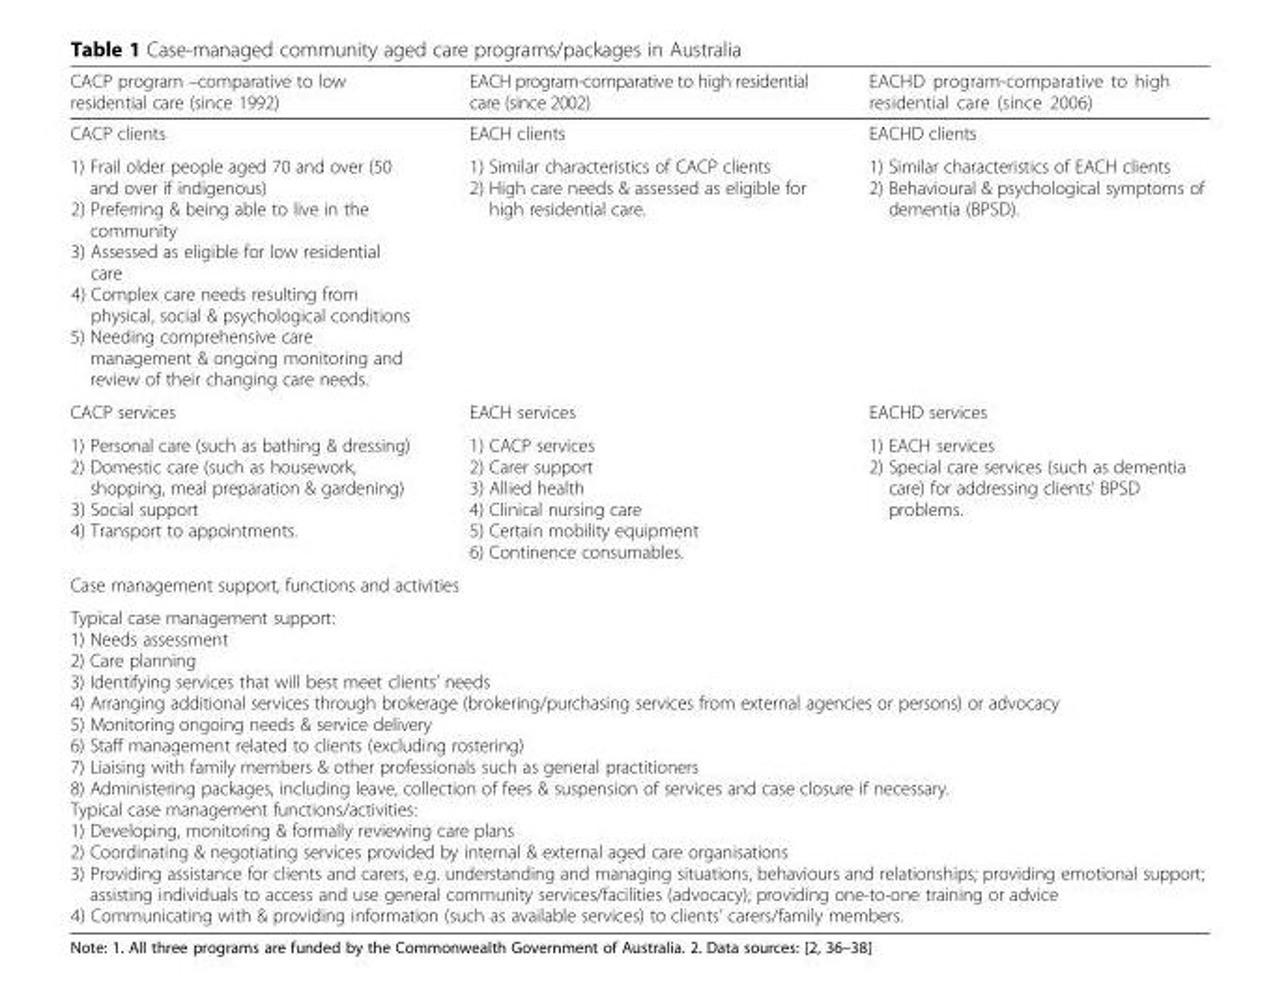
<table><thead><tr><td>CACP program –comparative to low residential care (since 1992)</td><td>EACH program-comparative to high residential care (since 2002)</td><td>EACHD program-comparative to high residential care (since 2006)</td></tr></thead><tbody><tr><td>CACP clients</td><td>EACH clients</td><td>EACHD clients</td></tr><tr><td>1) Frail older people aged 70 and over (50 and over if indigenous) 2) Preferring &amp; being able to live in the community 3) Assessed as eligible for low residential care 4) Complex care needs resulting from physical, social &amp; psychological conditions 5) Needing comprehensive care management &amp; ongoing monitoring and review of their changing care needs.</td><td>1) Similar characteristics of CACP clients 2) High care needs &amp; assessed as eligible for high residential care.</td><td>1) Similar characteristics of EACH clients 2) Behavioural &amp; psychological symptoms of dementia (BPSD).</td></tr><tr><td>CACP services</td><td>EACH services</td><td>EACHD services</td></tr><tr><td>1) Personal care (such as bathing &amp; dressing) 2) Domestic care (such as housework, shopping, meal preparation &amp; gardening) 3) Social support 4) Transport to appointments.</td><td>1) CACP services 2) Carer support 3) Allied health 4) Clinical nursing care 5) Certain mobility equipment 6) Continence consumables.</td><td>1) EACH services 2) Special care services (such as dementia care) for addressing clients’ BPSD problems.</td></tr><tr><td colspan="3">Case management support, functions and activities</td></tr><tr><td colspan="3">Typical case management support: 1) Needs assessment 2) Care planning 3) Identifying services that will best meet clients’ needs 4) Arranging additional services through brokerage (brokering/purchasing services from external agencies or persons) or advocacy 5) Monitoring ongoing needs &amp; service delivery 6) Staff management related to clients (excluding rostering) 7) Liaising with family members &amp; other professionals such as general practitioners 8) Administering packages, including leave, collection of fees &amp; suspension of services and case closure if necessary. Typical case management functions/activities: 1) Developing, monitoring &amp; formally reviewing care plans 2) Coordinating &amp; negotiating services provided by internal &amp; external aged care organisations 3) Providing assistance for clients and carers, e.g. understanding and managing situations, behaviours and relationships; providing emotional support; assisting individuals to access and use general community services/facilities (advocacy); providing one-to-one training or advice 4) Communicating with &amp; providing information (such as available services) to clients’ carers/family members.</td></tr></tbody></table>